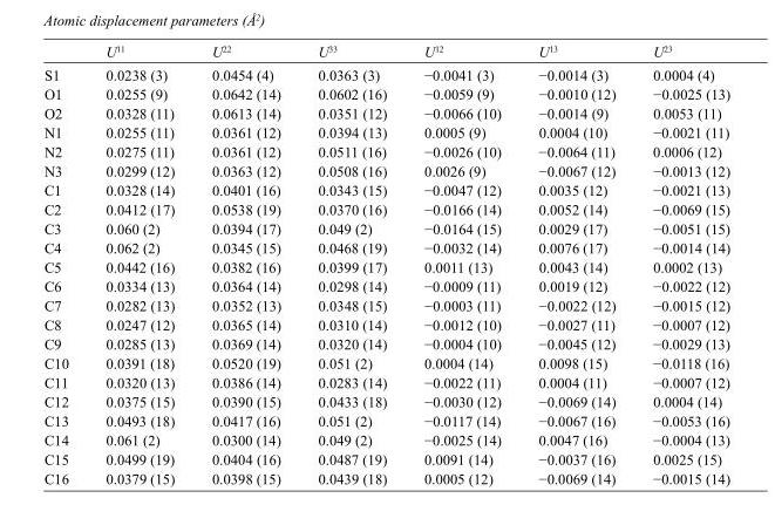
<table><thead><tr><td></td><td>U<sup>11</sup></td><td>U<sup>22</sup></td><td>U<sup>33</sup></td><td>U<sup>12</sup></td><td>U<sup>13</sup></td><td>U<sup>23</sup></td></tr></thead><tbody><tr><td>S1</td><td>0.0238 (3)</td><td>0.0454 (4)</td><td>0.0363 (3)</td><td>−0.0041 (3)</td><td>−0.0014 (3)</td><td>0.0004 (4)</td></tr><tr><td>O1</td><td>0.0255 (9)</td><td>0.0642 (14)</td><td>0.0602 (16)</td><td>−0.0059 (9)</td><td>−0.0010 (12)</td><td>−0.0025 (13)</td></tr><tr><td>O2</td><td>0.0328 (11)</td><td>0.0613 (14)</td><td>0.0351 (12)</td><td>−0.0066 (10)</td><td>−0.0014 (9)</td><td>0.0053 (11)</td></tr><tr><td>N1</td><td>0.0255 (11)</td><td>0.0361 (12)</td><td>0.0394 (13)</td><td>0.0005 (9)</td><td>0.0004 (10)</td><td>−0.0021 (11)</td></tr><tr><td>N2</td><td>0.0275 (11)</td><td>0.0361 (12)</td><td>0.0511 (16)</td><td>−0.0026 (10)</td><td>−0.0064 (11)</td><td>0.0006 (12)</td></tr><tr><td>N3</td><td>0.0299 (12)</td><td>0.0363 (12)</td><td>0.0508 (16)</td><td>0.0026 (9)</td><td>−0.0067 (12)</td><td>−0.0013 (12)</td></tr><tr><td>C1</td><td>0.0328 (14)</td><td>0.0401 (16)</td><td>0.0343 (15)</td><td>−0.0047 (12)</td><td>0.0035 (12)</td><td>−0.0021 (13)</td></tr><tr><td>C2</td><td>0.0412 (17)</td><td>0.0538 (19)</td><td>0.0370 (16)</td><td>−0.0166 (14)</td><td>0.0052 (14)</td><td>−0.0069 (15)</td></tr><tr><td>C3</td><td>0.060 (2)</td><td>0.0394 (17)</td><td>0.049 (2)</td><td>−0.0164 (15)</td><td>0.0029 (17)</td><td>−0.0051 (15)</td></tr><tr><td>C4</td><td>0.062 (2)</td><td>0.0345 (15)</td><td>0.0468 (19)</td><td>−0.0032 (14)</td><td>0.0076 (17)</td><td>−0.0014 (14)</td></tr><tr><td>C5</td><td>0.0442 (16)</td><td>0.0382 (16)</td><td>0.0399 (17)</td><td>0.0011 (13)</td><td>0.0043 (14)</td><td>0.0002 (13)</td></tr><tr><td>C6</td><td>0.0334 (13)</td><td>0.0364 (14)</td><td>0.0298 (14)</td><td>−0.0009 (11)</td><td>0.0019 (12)</td><td>−0.0022 (12)</td></tr><tr><td>C7</td><td>0.0282 (13)</td><td>0.0352 (13)</td><td>0.0348 (15)</td><td>−0.0003 (11)</td><td>−0.0022 (12)</td><td>−0.0015 (12)</td></tr><tr><td>C8</td><td>0.0247 (12)</td><td>0.0365 (14)</td><td>0.0310 (14)</td><td>−0.0012 (10)</td><td>−0.0027 (11)</td><td>−0.0007 (12)</td></tr><tr><td>C9</td><td>0.0285 (13)</td><td>0.0369 (14)</td><td>0.0320 (14)</td><td>−0.0004 (10)</td><td>−0.0045 (12)</td><td>−0.0029 (13)</td></tr><tr><td>C10</td><td>0.0391 (18)</td><td>0.0520 (19)</td><td>0.051 (2)</td><td>0.0004 (14)</td><td>0.0098 (15)</td><td>−0.0118 (16)</td></tr><tr><td>C11</td><td>0.0320 (13)</td><td>0.0386 (14)</td><td>0.0283 (14)</td><td>−0.0022 (11)</td><td>0.0004 (11)</td><td>−0.0007 (12)</td></tr><tr><td>C12</td><td>0.0375 (15)</td><td>0.0390 (15)</td><td>0.0433 (18)</td><td>−0.0030 (12)</td><td>−0.0069 (14)</td><td>0.0004 (14)</td></tr><tr><td>C13</td><td>0.0493 (18)</td><td>0.0417 (16)</td><td>0.051 (2)</td><td>−0.0117 (14)</td><td>−0.0067 (16)</td><td>−0.0053 (16)</td></tr><tr><td>C14</td><td>0.061 (2)</td><td>0.0300 (14)</td><td>0.049 (2)</td><td>−0.0025 (14)</td><td>0.0047 (16)</td><td>−0.0004 (13)</td></tr><tr><td>C15</td><td>0.0499 (19)</td><td>0.0404 (16)</td><td>0.0487 (19)</td><td>0.0091 (14)</td><td>−0.0037 (16)</td><td>0.0025 (15)</td></tr><tr><td>C16</td><td>0.0379 (15)</td><td>0.0398 (15)</td><td>0.0439 (18)</td><td>0.0005 (12)</td><td>−0.0069 (14)</td><td>−0.0015 (14)</td></tr></tbody></table>